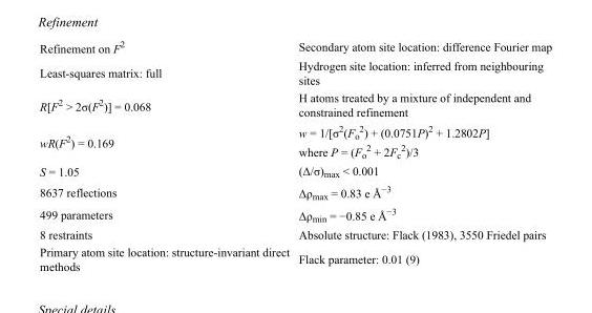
<table><tbody><tr><td>Refinement on F<sup>2</sup></td><td>Secondary atom site location: difference Fourier map</td></tr><tr><td>Least-squares matrix: full</td><td>Hydrogen site location: inferred from neighbouring sites</td></tr><tr><td>R[F<sup>2</sup> &gt; 2σ(F<sup>2</sup>)] = 0.068</td><td>H atoms treated by a mixture of independent and constrained refinement</td></tr><tr><td>wR(F<sup>2</sup>) = 0.169</td><td>w = 1/[σ<sup>2</sup>(F<sub>o</sub> <sup>2</sup>) + (0.0751P)<sup>2</sup> + 1.2802P] where P = (F<sub>o</sub> <sup>2</sup> + 2F<sub>c</sub> <sup>2</sup>)/3</td></tr><tr><td>S = 1.05</td><td>(Δ/σ)<sub>max</sub> &lt; 0.001</td></tr><tr><td>8637 reflections</td><td>Δρ<sub>max</sub> = 0.83 e Å<sup>−3</sup></td></tr><tr><td>499 parameters</td><td>Δρ<sub>min</sub> = −0.85 e Å<sup>−3</sup></td></tr><tr><td>8 restraints</td><td>Absolute structure: Flack (1983), 3550 Friedel pairs</td></tr><tr><td>Primary atom site location: structure-invariant direct methods</td><td>Flack parameter: 0.01 (9)</td></tr></tbody></table>